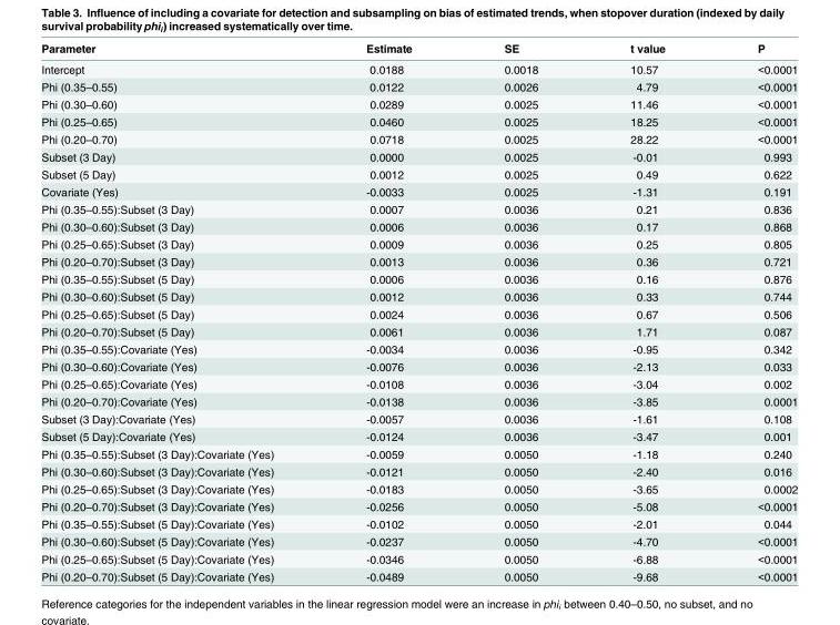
<table><thead><tr><td>Parameter</td><td>Estimate</td><td>SE</td><td>t value</td><td>P</td></tr></thead><tbody><tr><td>Intercept</td><td>0.0188</td><td>0.0018</td><td>10.57</td><td>&lt;0.0001</td></tr><tr><td>Phi (0.35–0.55)</td><td>0.0122</td><td>0.0026</td><td>4.79</td><td>&lt;0.0001</td></tr><tr><td>Phi (0.30–0.60)</td><td>0.0289</td><td>0.0025</td><td>11.46</td><td>&lt;0.0001</td></tr><tr><td>Phi (0.25–0.65)</td><td>0.0460</td><td>0.0025</td><td>18.25</td><td>&lt;0.0001</td></tr><tr><td>Phi (0.20–0.70)</td><td>0.0718</td><td>0.0025</td><td>28.22</td><td>&lt;0.0001</td></tr><tr><td>Subset (3 Day)</td><td>0.0000</td><td>0.0025</td><td>-0.01</td><td>0.993</td></tr><tr><td>Subset (5 Day)</td><td>0.0012</td><td>0.0025</td><td>0.49</td><td>0.622</td></tr><tr><td>Covariate (Yes)</td><td>-0.0033</td><td>0.0025</td><td>-1.31</td><td>0.191</td></tr><tr><td>Phi (0.35–0.55):Subset (3 Day)</td><td>0.0007</td><td>0.0036</td><td>0.21</td><td>0.836</td></tr><tr><td>Phi (0.30–0.60):Subset (3 Day)</td><td>0.0006</td><td>0.0036</td><td>0.17</td><td>0.868</td></tr><tr><td>Phi (0.25–0.65):Subset (3 Day)</td><td>0.0009</td><td>0.0036</td><td>0.25</td><td>0.805</td></tr><tr><td>Phi (0.20–0.70):Subset (3 Day)</td><td>0.0013</td><td>0.0036</td><td>0.36</td><td>0.721</td></tr><tr><td>Phi (0.35–0.55):Subset (5 Day)</td><td>0.0006</td><td>0.0036</td><td>0.16</td><td>0.876</td></tr><tr><td>Phi (0.30–0.60):Subset (5 Day)</td><td>0.0012</td><td>0.0036</td><td>0.33</td><td>0.744</td></tr><tr><td>Phi (0.25–0.65):Subset (5 Day)</td><td>0.0024</td><td>0.0036</td><td>0.67</td><td>0.506</td></tr><tr><td>Phi (0.20–0.70):Subset (5 Day)</td><td>0.0061</td><td>0.0036</td><td>1.71</td><td>0.087</td></tr><tr><td>Phi (0.35–0.55):Covariate (Yes)</td><td>-0.0034</td><td>0.0036</td><td>-0.95</td><td>0.342</td></tr><tr><td>Phi (0.30–0.60):Covariate (Yes)</td><td>-0.0076</td><td>0.0036</td><td>-2.13</td><td>0.033</td></tr><tr><td>Phi (0.25–0.65):Covariate (Yes)</td><td>-0.0108</td><td>0.0036</td><td>-3.04</td><td>0.002</td></tr><tr><td>Phi (0.20–0.70):Covariate (Yes)</td><td>-0.0138</td><td>0.0036</td><td>-3.85</td><td>0.0001</td></tr><tr><td>Subset (3 Day):Covariate (Yes)</td><td>-0.0057</td><td>0.0036</td><td>-1.61</td><td>0.108</td></tr><tr><td>Subset (5 Day):Covariate (Yes)</td><td>-0.0124</td><td>0.0036</td><td>-3.47</td><td>0.001</td></tr><tr><td>Phi (0.35–0.55):Subset (3 Day):Covariate (Yes)</td><td>-0.0059</td><td>0.0050</td><td>-1.18</td><td>0.240</td></tr><tr><td>Phi (0.30–0.60):Subset (3 Day):Covariate (Yes)</td><td>-0.0121</td><td>0.0050</td><td>-2.40</td><td>0.016</td></tr><tr><td>Phi (0.25–0.65):Subset (3 Day):Covariate (Yes)</td><td>-0.0183</td><td>0.0050</td><td>-3.65</td><td>0.0002</td></tr><tr><td>Phi (0.20–0.70):Subset (3 Day):Covariate (Yes)</td><td>-0.0256</td><td>0.0050</td><td>-5.08</td><td>&lt;0.0001</td></tr><tr><td>Phi (0.35–0.55):Subset (5 Day):Covariate (Yes)</td><td>-0.0102</td><td>0.0050</td><td>-2.01</td><td>0.044</td></tr><tr><td>Phi (0.30–0.60):Subset (5 Day):Covariate (Yes)</td><td>-0.0237</td><td>0.0050</td><td>-4.70</td><td>&lt;0.0001</td></tr><tr><td>Phi (0.25–0.65):Subset (5 Day):Covariate (Yes)</td><td>-0.0346</td><td>0.0050</td><td>-6.88</td><td>&lt;0.0001</td></tr><tr><td>Phi (0.20–0.70):Subset (5 Day):Covariate (Yes)</td><td>-0.0489</td><td>0.0050</td><td>-9.68</td><td>&lt;0.0001</td></tr></tbody></table>